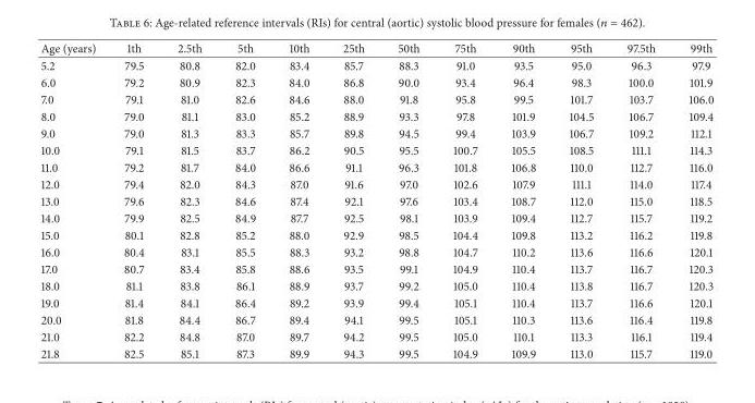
<table><thead><tr><td>Age (years)</td><td>1th</td><td>2.5th</td><td>5th</td><td>10th</td><td>25th</td><td>50th</td><td>75th</td><td>90th</td><td>95th</td><td>97.5th</td><td>99th</td></tr></thead><tbody><tr><td>5.2</td><td>79.5</td><td>80.8</td><td>82.0</td><td>83.4</td><td>85.7</td><td>88.3</td><td>91.0</td><td>93.5</td><td>95.0</td><td>96.3</td><td>97.9</td></tr><tr><td>6.0</td><td>79.2</td><td>80.9</td><td>82.3</td><td>84.0</td><td>86.8</td><td>90.0</td><td>93.4</td><td>96.4</td><td>98.3</td><td>100.0</td><td>101.9</td></tr><tr><td>7.0</td><td>79.1</td><td>81.0</td><td>82.6</td><td>84.6</td><td>88.0</td><td>91.8</td><td>95.8</td><td>99.5</td><td>101.7</td><td>103.7</td><td>106.0</td></tr><tr><td>8.0</td><td>79.0</td><td>81.1</td><td>83.0</td><td>85.2</td><td>88.9</td><td>93.3</td><td>97.8</td><td>101.9</td><td>104.5</td><td>106.7</td><td>109.4</td></tr><tr><td>9.0</td><td>79.0</td><td>81.3</td><td>83.3</td><td>85.7</td><td>89.8</td><td>94.5</td><td>99.4</td><td>103.9</td><td>106.7</td><td>109.2</td><td>112.1</td></tr><tr><td>10.0</td><td>79.1</td><td>81.5</td><td>83.7</td><td>86.2</td><td>90.5</td><td>95.5</td><td>100.7</td><td>105.5</td><td>108.5</td><td>111.1</td><td>114.3</td></tr><tr><td>11.0</td><td>79.2</td><td>81.7</td><td>84.0</td><td>86.6</td><td>91.1</td><td>96.3</td><td>101.8</td><td>106.8</td><td>110.0</td><td>112.7</td><td>116.0</td></tr><tr><td>12.0</td><td>79.4</td><td>82.0</td><td>84.3</td><td>87.0</td><td>91.6</td><td>97.0</td><td>102.6</td><td>107.9</td><td>111.1</td><td>114.0</td><td>117.4</td></tr><tr><td>13.0</td><td>79.6</td><td>82.3</td><td>84.6</td><td>87.4</td><td>92.1</td><td>97.6</td><td>103.4</td><td>108.7</td><td>112.0</td><td>115.0</td><td>118.5</td></tr><tr><td>14.0</td><td>79.9</td><td>82.5</td><td>84.9</td><td>87.7</td><td>92.5</td><td>98.1</td><td>103.9</td><td>109.4</td><td>112.7</td><td>115.7</td><td>119.2</td></tr><tr><td>15.0</td><td>80.1</td><td>82.8</td><td>85.2</td><td>88.0</td><td>92.9</td><td>98.5</td><td>104.4</td><td>109.8</td><td>113.2</td><td>116.2</td><td>119.8</td></tr><tr><td>16.0</td><td>80.4</td><td>83.1</td><td>85.5</td><td>88.3</td><td>93.2</td><td>98.8</td><td>104.7</td><td>110.2</td><td>113.6</td><td>116.6</td><td>120.1</td></tr><tr><td>17.0</td><td>80.7</td><td>83.4</td><td>85.8</td><td>88.6</td><td>93.5</td><td>99.1</td><td>104.9</td><td>110.4</td><td>113.7</td><td>116.7</td><td>120.3</td></tr><tr><td>18.0</td><td>81.1</td><td>83.8</td><td>86.1</td><td>88.9</td><td>93.7</td><td>99.2</td><td>105.0</td><td>110.4</td><td>113.8</td><td>116.7</td><td>120.3</td></tr><tr><td>19.0</td><td>81.4</td><td>84.1</td><td>86.4</td><td>89.2</td><td>93.9</td><td>99.4</td><td>105.1</td><td>110.4</td><td>113.7</td><td>116.6</td><td>120.1</td></tr><tr><td>20.0</td><td>81.8</td><td>84.4</td><td>86.7</td><td>89.4</td><td>94.1</td><td>99.5</td><td>105.1</td><td>110.3</td><td>113.6</td><td>116.4</td><td>119.8</td></tr><tr><td>21.0</td><td>82.2</td><td>84.8</td><td>87.0</td><td>89.7</td><td>94.2</td><td>99.5</td><td>105.0</td><td>110.1</td><td>113.3</td><td>116.1</td><td>119.4</td></tr><tr><td>21.8</td><td>82.5</td><td>85.1</td><td>87.3</td><td>89.9</td><td>94.3</td><td>99.5</td><td>104.9</td><td>109.9</td><td>113.0</td><td>115.7</td><td>119.0</td></tr></tbody></table>